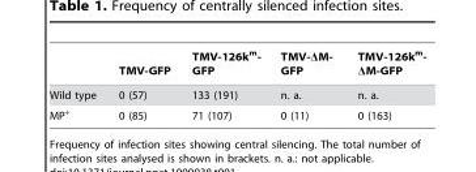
<table><thead><tr><td></td><td>TMV-GFP</td><td>TMV-126k<sup>m</sup>- GFP</td><td>TMV-ΔM- GFP</td><td>TMV-126k<sup>m</sup>- ΔM-GFP</td></tr></thead><tbody><tr><td>Wild type</td><td>0 (57)</td><td>133 (191)</td><td>n. a.</td><td>n. a.</td></tr><tr><td>MP<sup>+</sup></td><td>0 (85)</td><td>71 (107)</td><td>0 (11)</td><td>0 (163)</td></tr></tbody></table>